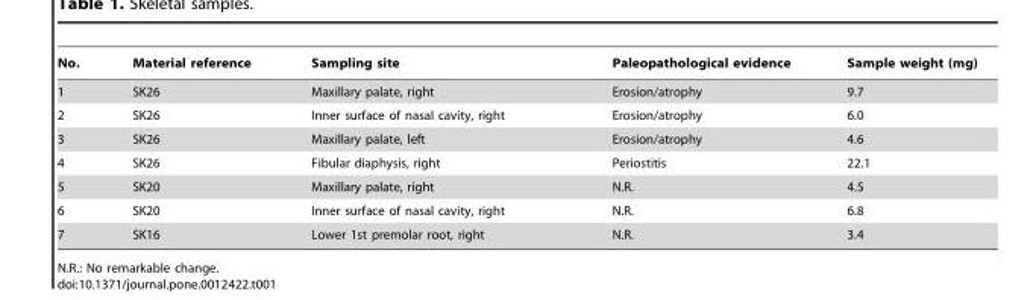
<table><thead><tr><td>No.</td><td>Material reference</td><td>Sampling site</td><td>Paleopathological evidence</td><td>Sample weight (mg)</td></tr></thead><tbody><tr><td>1</td><td>SK26</td><td>Maxillary palate, right</td><td>Erosion/atrophy</td><td>9.7</td></tr><tr><td>2</td><td>SK26</td><td>Inner surface of nasal cavity, right</td><td>Erosion/atrophy</td><td>6.0</td></tr><tr><td>3</td><td>SK26</td><td>Maxillary palate, left</td><td>Erosion/atrophy</td><td>4.6</td></tr><tr><td>4</td><td>SK26</td><td>Fibular diaphysis, right</td><td>Periostitis</td><td>22.1</td></tr><tr><td>5</td><td>SK20</td><td>Maxillary palate, right</td><td>N.R.</td><td>4.5</td></tr><tr><td>6</td><td>SK20</td><td>Inner surface of nasal cavity, right</td><td>N.R.</td><td>6.8</td></tr><tr><td>7</td><td>SK16</td><td>Lower 1st premolar root, right</td><td>N.R.</td><td>3.4</td></tr></tbody></table>